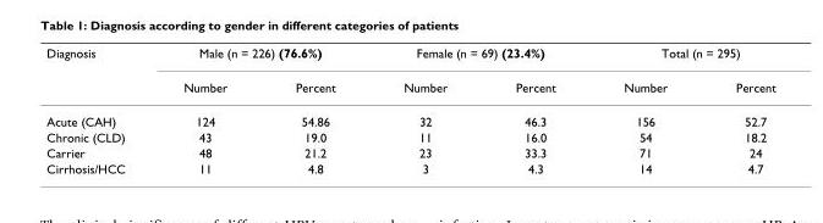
<table><thead><tr><td rowspan="2">Diagnosis</td><td colspan="2">Male (n = 226) (76.6%)</td><td colspan="2">Female (n = 69) (23.4%)</td><td colspan="2">Total (n = 295)</td></tr><tr><td>Number</td><td>Percent</td><td>Number</td><td>Percent</td><td>Number</td><td>Percent</td></tr></thead><tbody><tr><td>Acute (CAH)</td><td>124</td><td>54.86</td><td>32</td><td>46.3</td><td>156</td><td>52.7</td></tr><tr><td>Chronic (CLD)</td><td>43</td><td>19.0</td><td>11</td><td>16.0</td><td>54</td><td>18.2</td></tr><tr><td>Carrier</td><td>48</td><td>21.2</td><td>23</td><td>33.3</td><td>71</td><td>24</td></tr><tr><td>Cirrhosis/HCC</td><td>11</td><td>4.8</td><td>3</td><td>4.3</td><td>14</td><td>4.7</td></tr></tbody></table>